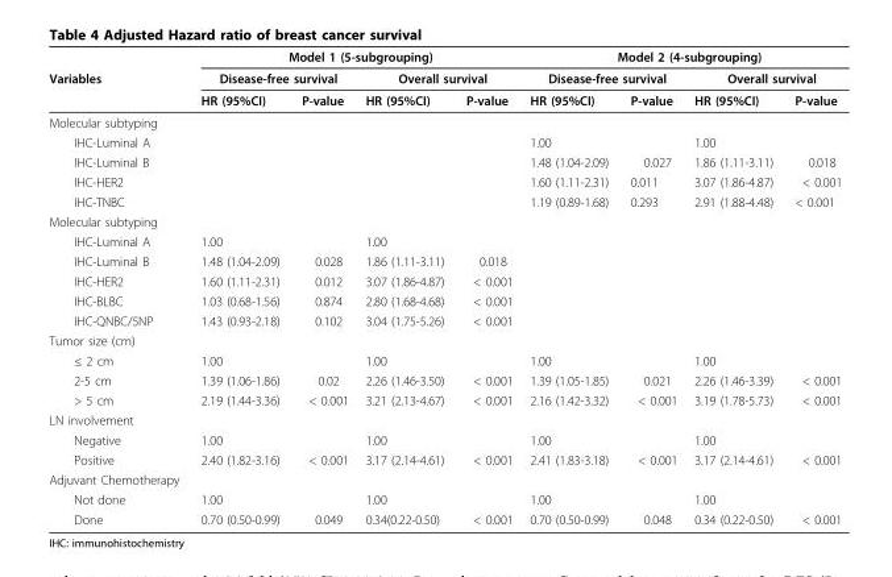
<table><thead><tr><td rowspan="3">Variables</td><td colspan="4">Model 1 (5-subgrouping)</td><td colspan="4">Model 2 (4-subgrouping)</td></tr><tr><td colspan="2">Disease-free survival</td><td colspan="2">Overall survival</td><td colspan="2">Disease-free survival</td><td colspan="2">Overall survival</td></tr><tr><td>HR (95%CI)</td><td>P-value</td><td>HR (95%CI)</td><td>P-value</td><td>HR (95%CI)</td><td>P-value</td><td>HR (95%CI)</td><td>P-value</td></tr></thead><tbody><tr><td colspan="9">Molecular subtyping</td></tr><tr><td>IHC-Luminal A</td><td></td><td></td><td></td><td></td><td>1.00</td><td></td><td>1.00</td><td></td></tr><tr><td>IHC-Luminal B</td><td></td><td></td><td></td><td></td><td>1.48 (1.04-2.09)</td><td>0.027</td><td>1.86 (1.11-3.11)</td><td>0.018</td></tr><tr><td>IHC-HER2</td><td></td><td></td><td></td><td></td><td>1.60 (1.11-2.31)</td><td>0.011</td><td>3.07 (1.86-4.87)</td><td>&lt; 0.001</td></tr><tr><td>IHC-TNBC</td><td></td><td></td><td></td><td></td><td>1.19 (0.89-1.68)</td><td>0.293</td><td>2.91 (1.88-4.48)</td><td>&lt; 0.001</td></tr><tr><td colspan="9">Molecular subtyping</td></tr><tr><td>IHC-Luminal A</td><td>1.00</td><td></td><td>1.00</td><td></td><td></td><td></td><td></td><td></td></tr><tr><td>IHC-Luminal B</td><td>1.48 (1.04-2.09)</td><td>0.028</td><td>1.86 (1.11-3.11)</td><td>0.018</td><td></td><td></td><td></td><td></td></tr><tr><td>IHC-HER2</td><td>1.60 (1.11-2.31)</td><td>0.012</td><td>3.07 (1.86-4.87)</td><td>&lt; 0.001</td><td></td><td></td><td></td><td></td></tr><tr><td>IHC-BLBC</td><td>1.03 (0.68-1.56)</td><td>0.874</td><td>2.80 (1.68-4.68)</td><td>&lt; 0.001</td><td></td><td></td><td></td><td></td></tr><tr><td>IHC-QNBC/5NP</td><td>1.43 (0.93-2.18)</td><td>0.102</td><td>3.04 (1.75-5.26)</td><td>&lt; 0.001</td><td></td><td></td><td></td><td></td></tr><tr><td colspan="9">Tumor size (cm)</td></tr><tr><td>≤ 2 cm</td><td>1.00</td><td></td><td>1.00</td><td></td><td>1.00</td><td></td><td>1.00</td><td></td></tr><tr><td>2-5 cm</td><td>1.39 (1.06-1.86)</td><td>0.02</td><td>2.26 (1.46-3.50)</td><td>&lt; 0.001</td><td>1.39 (1.05-1.85)</td><td>0.021</td><td>2.26 (1.46-3.39)</td><td>&lt; 0.001</td></tr><tr><td>&gt; 5 cm</td><td>2.19 (1.44-3.36)</td><td>&lt; 0.001</td><td>3.21 (2.13-4.67)</td><td>&lt; 0.001</td><td>2.16 (1.42-3.32)</td><td>&lt; 0.001</td><td>3.19 (1.78-5.73)</td><td>&lt; 0.001</td></tr><tr><td colspan="9">LN involvement</td></tr><tr><td>Negative</td><td>1.00</td><td></td><td>1.00</td><td></td><td>1.00</td><td></td><td>1.00</td><td></td></tr><tr><td>Positive</td><td>2.40 (1.82-3.16)</td><td>&lt; 0.001</td><td>3.17 (2.14-4.61)</td><td>&lt; 0.001</td><td>2.41 (1.83-3.18)</td><td>&lt; 0.001</td><td>3.17 (2.14-4.61)</td><td>&lt; 0.001</td></tr><tr><td colspan="9">Adjuvant Chemotherapy</td></tr><tr><td>Not done</td><td>1.00</td><td></td><td>1.00</td><td></td><td>1.00</td><td></td><td>1.00</td><td></td></tr><tr><td>Done</td><td>0.70 (0.50-0.99)</td><td>0.049</td><td>0.34(0.22-0.50)</td><td>&lt; 0.001</td><td>0.70 (0.50-0.99)</td><td>0.048</td><td>0.34 (0.22-0.50)</td><td>&lt; 0.001</td></tr></tbody></table>